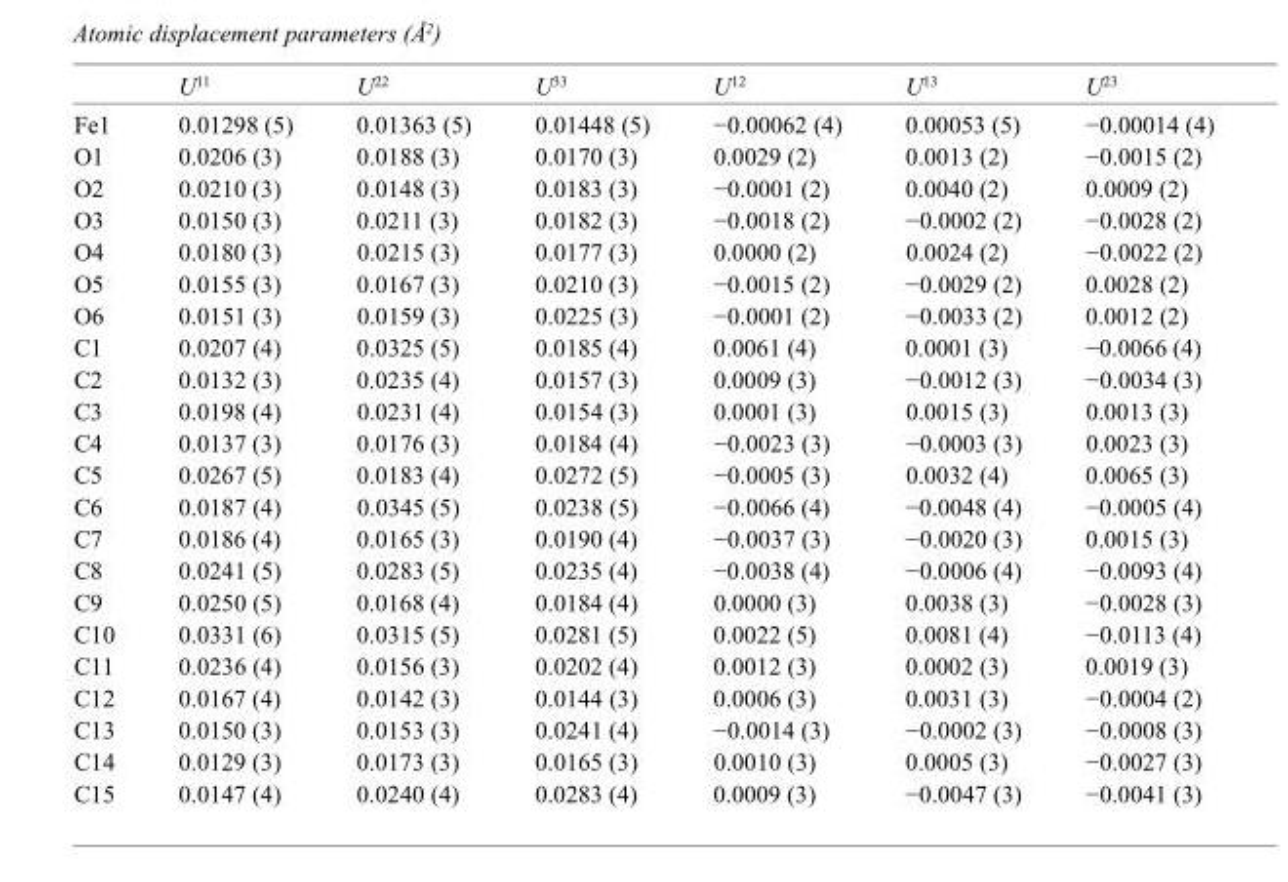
<table><thead><tr><td></td><td>U<sup>11</sup></td><td>U<sup>22</sup></td><td>U<sup>33</sup></td><td>U<sup>12</sup></td><td>U<sup>13</sup></td><td>U<sup>23</sup></td></tr></thead><tbody><tr><td>Fe1</td><td>0.01298 (5)</td><td>0.01363 (5)</td><td>0.01448 (5)</td><td>−0.00062 (4)</td><td>0.00053 (5)</td><td>−0.00014 (4)</td></tr><tr><td>O1</td><td>0.0206 (3)</td><td>0.0188 (3)</td><td>0.0170 (3)</td><td>0.0029 (2)</td><td>0.0013 (2)</td><td>−0.0015 (2)</td></tr><tr><td>O2</td><td>0.0210 (3)</td><td>0.0148 (3)</td><td>0.0183 (3)</td><td>−0.0001 (2)</td><td>0.0040 (2)</td><td>0.0009 (2)</td></tr><tr><td>O3</td><td>0.0150 (3)</td><td>0.0211 (3)</td><td>0.0182 (3)</td><td>−0.0018 (2)</td><td>−0.0002 (2)</td><td>−0.0028 (2)</td></tr><tr><td>O4</td><td>0.0180 (3)</td><td>0.0215 (3)</td><td>0.0177 (3)</td><td>0.0000 (2)</td><td>0.0024 (2)</td><td>−0.0022 (2)</td></tr><tr><td>O5</td><td>0.0155 (3)</td><td>0.0167 (3)</td><td>0.0210 (3)</td><td>−0.0015 (2)</td><td>−0.0029 (2)</td><td>0.0028 (2)</td></tr><tr><td>O6</td><td>0.0151 (3)</td><td>0.0159 (3)</td><td>0.0225 (3)</td><td>−0.0001 (2)</td><td>−0.0033 (2)</td><td>0.0012 (2)</td></tr><tr><td>C1</td><td>0.0207 (4)</td><td>0.0325 (5)</td><td>0.0185 (4)</td><td>0.0061 (4)</td><td>0.0001 (3)</td><td>−0.0066 (4)</td></tr><tr><td>C2</td><td>0.0132 (3)</td><td>0.0235 (4)</td><td>0.0157 (3)</td><td>0.0009 (3)</td><td>−0.0012 (3)</td><td>−0.0034 (3)</td></tr><tr><td>C3</td><td>0.0198 (4)</td><td>0.0231 (4)</td><td>0.0154 (3)</td><td>0.0001 (3)</td><td>0.0015 (3)</td><td>0.0013 (3)</td></tr><tr><td>C4</td><td>0.0137 (3)</td><td>0.0176 (3)</td><td>0.0184 (4)</td><td>−0.0023 (3)</td><td>−0.0003 (3)</td><td>0.0023 (3)</td></tr><tr><td>C5</td><td>0.0267 (5)</td><td>0.0183 (4)</td><td>0.0272 (5)</td><td>−0.0005 (3)</td><td>0.0032 (4)</td><td>0.0065 (3)</td></tr><tr><td>C6</td><td>0.0187 (4)</td><td>0.0345 (5)</td><td>0.0238 (5)</td><td>−0.0066 (4)</td><td>−0.0048 (4)</td><td>−0.0005 (4)</td></tr><tr><td>C7</td><td>0.0186 (4)</td><td>0.0165 (3)</td><td>0.0190 (4)</td><td>−0.0037 (3)</td><td>−0.0020 (3)</td><td>0.0015 (3)</td></tr><tr><td>C8</td><td>0.0241 (5)</td><td>0.0283 (5)</td><td>0.0235 (4)</td><td>−0.0038 (4)</td><td>−0.0006 (4)</td><td>−0.0093 (4)</td></tr><tr><td>C9</td><td>0.0250 (5)</td><td>0.0168 (4)</td><td>0.0184 (4)</td><td>0.0000 (3)</td><td>0.0038 (3)</td><td>−0.0028 (3)</td></tr><tr><td>C10</td><td>0.0331 (6)</td><td>0.0315 (5)</td><td>0.0281 (5)</td><td>0.0022 (5)</td><td>0.0081 (4)</td><td>−0.0113 (4)</td></tr><tr><td>C11</td><td>0.0236 (4)</td><td>0.0156 (3)</td><td>0.0202 (4)</td><td>0.0012 (3)</td><td>0.0002 (3)</td><td>0.0019 (3)</td></tr><tr><td>C12</td><td>0.0167 (4)</td><td>0.0142 (3)</td><td>0.0144 (3)</td><td>0.0006 (3)</td><td>0.0031 (3)</td><td>−0.0004 (2)</td></tr><tr><td>C13</td><td>0.0150 (3)</td><td>0.0153 (3)</td><td>0.0241 (4)</td><td>−0.0014 (3)</td><td>−0.0002 (3)</td><td>−0.0008 (3)</td></tr><tr><td>C14</td><td>0.0129 (3)</td><td>0.0173 (3)</td><td>0.0165 (3)</td><td>0.0010 (3)</td><td>0.0005 (3)</td><td>−0.0027 (3)</td></tr><tr><td>C15</td><td>0.0147 (4)</td><td>0.0240 (4)</td><td>0.0283 (4)</td><td>0.0009 (3)</td><td>−0.0047 (3)</td><td>−0.0041 (3)</td></tr></tbody></table>